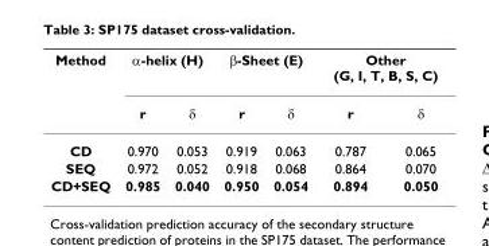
<table><thead><tr><td rowspan="2">Method</td><td colspan="2">α-helix (H)</td><td colspan="2">β-Sheet (E)</td><td colspan="2">Other (G, I, T, B, S, C)</td></tr><tr><td>r</td><td>δ</td><td>r</td><td>δ</td><td>r</td><td>δ</td></tr></thead><tbody><tr><td>CD</td><td>0.970</td><td>0.053</td><td>0.919</td><td>0.063</td><td>0.787</td><td>0.065</td></tr><tr><td>SEQ</td><td>0.972</td><td>0.052</td><td>0.918</td><td>0.068</td><td>0.864</td><td>0.070</td></tr><tr><td>CD+SEQ</td><td>0.985</td><td>0.040</td><td>0.950</td><td>0.054</td><td>0.894</td><td>0.050</td></tr></tbody></table>